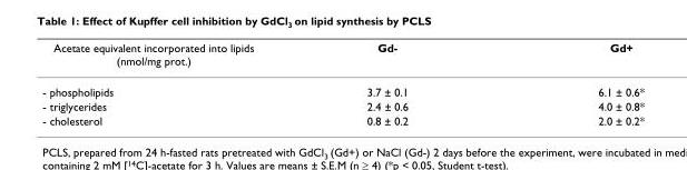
<table><thead><tr><td>Acetate equivalent incorporated into lipids (nmol/mg prot.)</td><td>Gd-</td><td>Gd+</td></tr></thead><tbody><tr><td>- phospholipids</td><td>3.7 ± 0.1</td><td>6.1 ± 0.6*</td></tr><tr><td>- triglycerides</td><td>2.4 ± 0.6</td><td>4.0 ± 0.8*</td></tr><tr><td>- cholesterol</td><td>0.8 ± 0.2</td><td>2.0 ± 0.2*</td></tr></tbody></table>